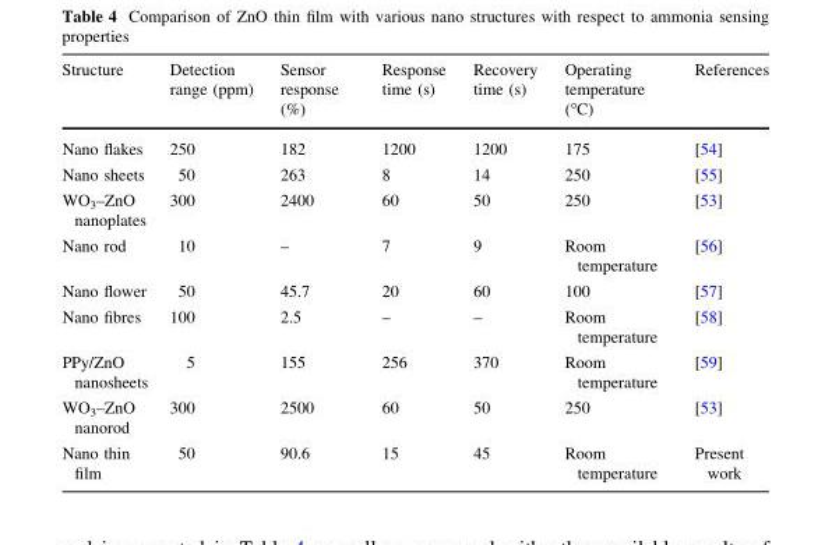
<table><thead><tr><td>Structure</td><td>Detection range (ppm)</td><td>Sensor response (%)</td><td>Response time (s)</td><td>Recovery time (s)</td><td>Operating temperature (°C)</td><td>References</td></tr></thead><tbody><tr><td>Nano flakes</td><td>250</td><td>182</td><td>1200</td><td>1200</td><td>175</td><td>[54]</td></tr><tr><td>Nano sheets</td><td>50</td><td>263</td><td>8</td><td>14</td><td>250</td><td>[55]</td></tr><tr><td>WO<sub>3</sub>–ZnO nanoplates</td><td>300</td><td>2400</td><td>60</td><td>50</td><td>250</td><td>[53]</td></tr><tr><td>Nano rod</td><td>10</td><td>–</td><td>7</td><td>9</td><td>Room temperature</td><td>[56]</td></tr><tr><td>Nano flower</td><td>50</td><td>45.7</td><td>20</td><td>60</td><td>100</td><td>[57]</td></tr><tr><td>Nano fibres</td><td>100</td><td>2.5</td><td>–</td><td>–</td><td>Room temperature</td><td>[58]</td></tr><tr><td>PPy/ZnO nanosheets</td><td>5</td><td>155</td><td>256</td><td>370</td><td>Room temperature</td><td>[59]</td></tr><tr><td>WO<sub>3</sub>–ZnO nanorod</td><td>300</td><td>2500</td><td>60</td><td>50</td><td>250</td><td>[53]</td></tr><tr><td>Nano thin film</td><td>50</td><td>90.6</td><td>15</td><td>45</td><td>Room temperature</td><td>Present work</td></tr></tbody></table>